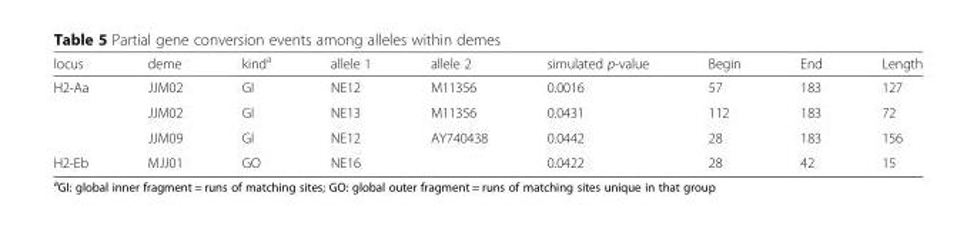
<table><thead><tr><td>locus</td><td>deme</td><td>kind<sup>a</sup></td><td>allele 1</td><td>allele 2</td><td>simulated p-value</td><td>Begin</td><td>End</td><td>Length</td></tr></thead><tbody><tr><td rowspan="3">H2-Aa</td><td>JJM02</td><td>GI</td><td>NE12</td><td>M11356</td><td>0.0016</td><td>57</td><td>183</td><td>127</td></tr><tr><td>JJM02</td><td>GI</td><td>NE13</td><td>M11356</td><td>0.0431</td><td>112</td><td>183</td><td>72</td></tr><tr><td>JJM09</td><td>GI</td><td>NE12</td><td>AY740438</td><td>0.0442</td><td>28</td><td>183</td><td>156</td></tr><tr><td>H2-Eb</td><td>MJJ01</td><td>GO</td><td>NE16</td><td></td><td>0.0422</td><td>28</td><td>42</td><td>15</td></tr></tbody></table>